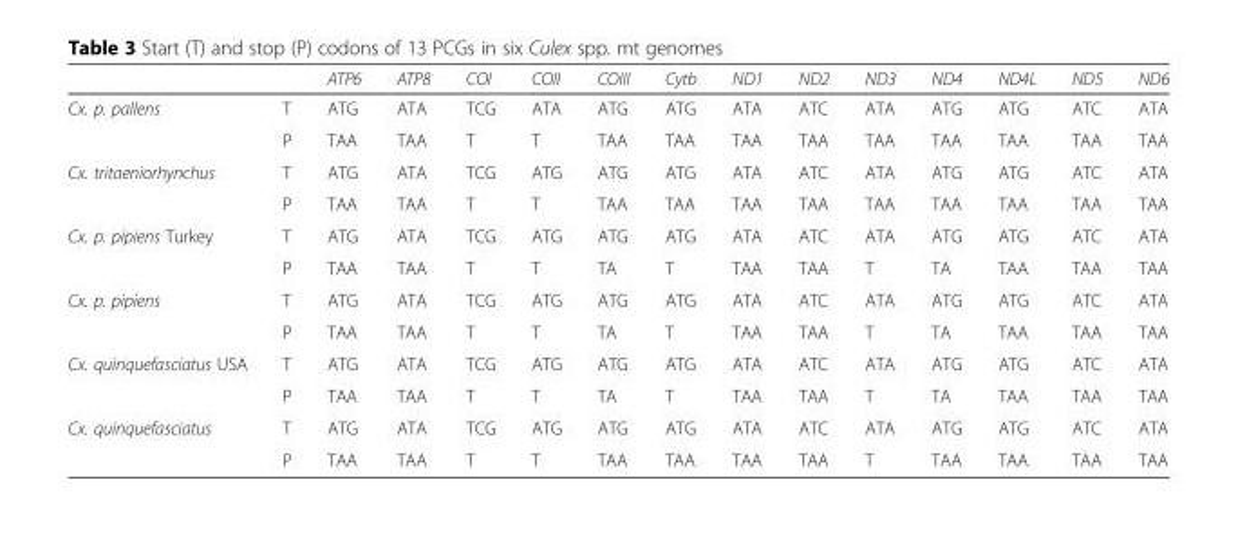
<table><thead><tr><td></td><td></td><td>ATP6</td><td>ATP8</td><td>COI</td><td>COII</td><td>COIII</td><td>Cytb</td><td>ND1</td><td>ND2</td><td>ND3</td><td>ND4</td><td>ND4L</td><td>ND5</td><td>ND6</td></tr></thead><tbody><tr><td rowspan="2">Cx. p. pallens</td><td>T</td><td>ATG</td><td>ATA</td><td>TCG</td><td>ATA</td><td>ATG</td><td>ATG</td><td>ATA</td><td>ATC</td><td>ATA</td><td>ATG</td><td>ATG</td><td>ATC</td><td>ATA</td></tr><tr><td>P</td><td>TAA</td><td>TAA</td><td>T</td><td>T</td><td>TAA</td><td>TAA</td><td>TAA</td><td>TAA</td><td>TAA</td><td>TAA</td><td>TAA</td><td>TAA</td><td>TAA</td></tr><tr><td rowspan="2">Cx. tritaeniorhynchus</td><td>T</td><td>ATG</td><td>ATA</td><td>TCG</td><td>ATG</td><td>ATG</td><td>ATG</td><td>ATA</td><td>ATC</td><td>ATA</td><td>ATG</td><td>ATG</td><td>ATC</td><td>ATA</td></tr><tr><td>P</td><td>TAA</td><td>TAA</td><td>T</td><td>T</td><td>TAA</td><td>TAA</td><td>TAA</td><td>TAA</td><td>TAA</td><td>TAA</td><td>TAA</td><td>TAA</td><td>TAA</td></tr><tr><td rowspan="2">Cx. p. pipiens Turkey</td><td>T</td><td>ATG</td><td>ATA</td><td>TCG</td><td>ATG</td><td>ATG</td><td>ATG</td><td>ATA</td><td>ATC</td><td>ATA</td><td>ATG</td><td>ATG</td><td>ATC</td><td>ATA</td></tr><tr><td>P</td><td>TAA</td><td>TAA</td><td>T</td><td>T</td><td>TA</td><td>T</td><td>TAA</td><td>TAA</td><td>T</td><td>TA</td><td>TAA</td><td>TAA</td><td>TAA</td></tr><tr><td rowspan="2">Cx. p. pipiens</td><td>T</td><td>ATG</td><td>ATA</td><td>TCG</td><td>ATG</td><td>ATG</td><td>ATG</td><td>ATA</td><td>ATC</td><td>ATA</td><td>ATG</td><td>ATG</td><td>ATC</td><td>ATA</td></tr><tr><td>P</td><td>TAA</td><td>TAA</td><td>T</td><td>T</td><td>TA</td><td>T</td><td>TAA</td><td>TAA</td><td>T</td><td>TA</td><td>TAA</td><td>TAA</td><td>TAA</td></tr><tr><td rowspan="2">Cx. quinquefasciatus USA</td><td>T</td><td>ATG</td><td>ATA</td><td>TCG</td><td>ATG</td><td>ATG</td><td>ATG</td><td>ATA</td><td>ATC</td><td>ATA</td><td>ATG</td><td>ATG</td><td>ATC</td><td>ATA</td></tr><tr><td>P</td><td>TAA</td><td>TAA</td><td>T</td><td>T</td><td>TA</td><td>T</td><td>TAA</td><td>TAA</td><td>T</td><td>TA</td><td>TAA</td><td>TAA</td><td>TAA</td></tr><tr><td rowspan="2">Cx. quinquefasciatus</td><td>T</td><td>ATG</td><td>ATA</td><td>TCG</td><td>ATG</td><td>ATG</td><td>ATG</td><td>ATA</td><td>ATC</td><td>ATA</td><td>ATG</td><td>ATG</td><td>ATC</td><td>ATA</td></tr><tr><td>P</td><td>TAA</td><td>TAA</td><td>T</td><td>T</td><td>TAA</td><td>TAA</td><td>TAA</td><td>TAA</td><td>T</td><td>TAA</td><td>TAA</td><td>TAA</td><td>TAA</td></tr></tbody></table>